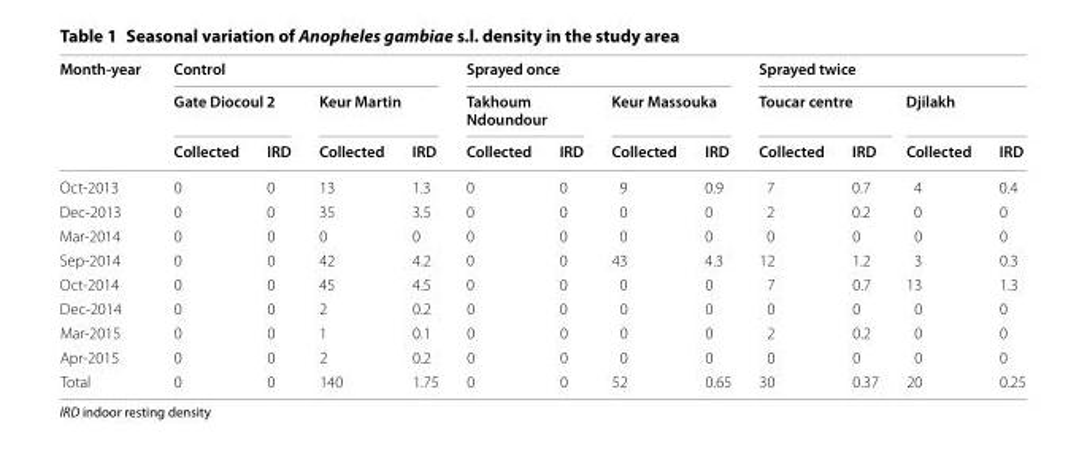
<table><thead><tr><td rowspan="3">Month-year</td><td colspan="4">Control</td><td colspan="4">Sprayed once</td><td colspan="4">Sprayed twice</td></tr><tr><td colspan="2">Gate Diocoul 2</td><td colspan="2">Keur Martin</td><td colspan="2">Takhoum Ndoundour</td><td colspan="2">Keur Massouka</td><td colspan="2">Toucar centre</td><td colspan="2">Djilakh</td></tr><tr><td>Collected</td><td>IRD</td><td>Collected</td><td>IRD</td><td>Collected</td><td>IRD</td><td>Collected</td><td>IRD</td><td>Collected</td><td>IRD</td><td>Collected</td><td>IRD</td></tr></thead><tbody><tr><td>Oct-2013</td><td>0</td><td>0</td><td>13</td><td>1.3</td><td>0</td><td>0</td><td>9</td><td>0.9</td><td>7</td><td>0.7</td><td>4</td><td>0.4</td></tr><tr><td>Dec-2013</td><td>0</td><td>0</td><td>35</td><td>3.5</td><td>0</td><td>0</td><td>0</td><td>0</td><td>2</td><td>0.2</td><td>0</td><td>0</td></tr><tr><td>Mar-2014</td><td>0</td><td>0</td><td>0</td><td>0</td><td>0</td><td>0</td><td>0</td><td>0</td><td>0</td><td>0</td><td>0</td><td>0</td></tr><tr><td>Sep-2014</td><td>0</td><td>0</td><td>42</td><td>4.2</td><td>0</td><td>0</td><td>43</td><td>4.3</td><td>12</td><td>1.2</td><td>3</td><td>0.3</td></tr><tr><td>Oct-2014</td><td>0</td><td>0</td><td>45</td><td>4.5</td><td>0</td><td>0</td><td>0</td><td>0</td><td>7</td><td>0.7</td><td>13</td><td>1.3</td></tr><tr><td>Dec-2014</td><td>0</td><td>0</td><td>2</td><td>0.2</td><td>0</td><td>0</td><td>0</td><td>0</td><td>0</td><td>0</td><td>0</td><td>0</td></tr><tr><td>Mar-2015</td><td>0</td><td>0</td><td>1</td><td>0.1</td><td>0</td><td>0</td><td>0</td><td>0</td><td>2</td><td>0.2</td><td>0</td><td>0</td></tr><tr><td>Apr-2015</td><td>0</td><td>0</td><td>2</td><td>0.2</td><td>0</td><td>0</td><td>0</td><td>0</td><td>0</td><td>0</td><td>0</td><td>0</td></tr><tr><td>Total</td><td>0</td><td>0</td><td>140</td><td>1.75</td><td>0</td><td>0</td><td>52</td><td>0.65</td><td>30</td><td>0.37</td><td>20</td><td>0.25</td></tr></tbody></table>